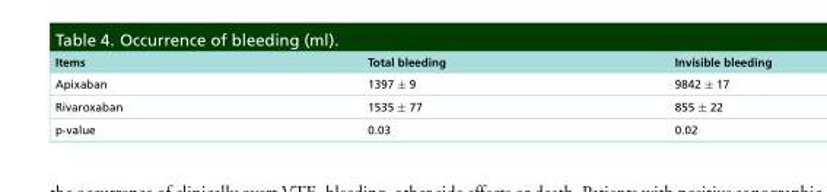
<table><thead><tr><td>Items</td><td>Total bleeding</td><td>Invisible bleeding</td></tr></thead><tbody><tr><td>Apixaban</td><td>1397 ± 9</td><td>9842 ± 17</td></tr><tr><td>Rivaroxaban</td><td>1535 ± 77</td><td>855 ± 22</td></tr><tr><td>p-value</td><td>0.03</td><td>0.02</td></tr></tbody></table>